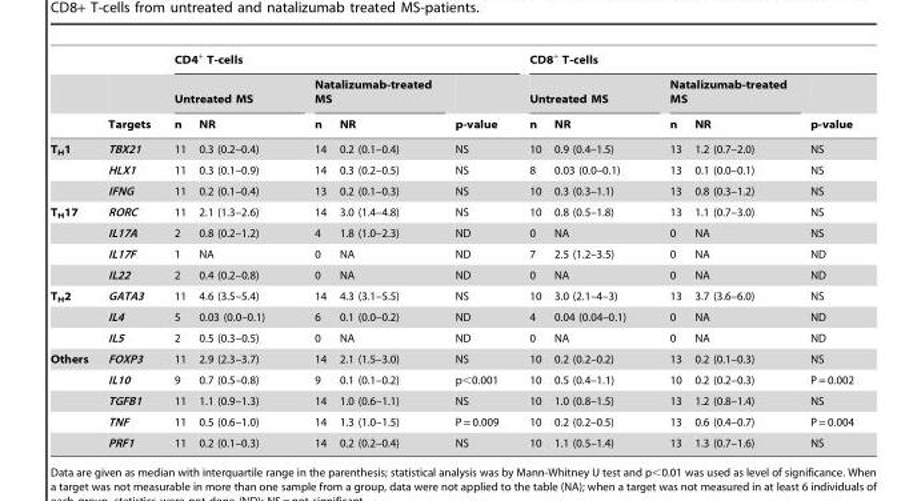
<table><thead><tr><td rowspan="3"></td><td rowspan="3">Targets</td><td colspan="5">CD4<sup>+</sup> T-cells</td><td colspan="5">CD8<sup>+</sup> T-cells</td></tr><tr><td colspan="2">Untreated MS</td><td colspan="2">Natalizumab-treated MS</td><td rowspan="2">p-value</td><td colspan="2">Untreated MS</td><td colspan="2">Natalizumab-treated MS</td><td rowspan="2">p-value</td></tr><tr><td>n</td><td>NR</td><td>n</td><td>NR</td><td>n</td><td>NR</td><td>n</td><td>NR</td></tr></thead><tbody><tr><td rowspan="3">T<sub>H</sub>1</td><td>TBX21</td><td>11</td><td>0.3 (0.2–0.4)</td><td>14</td><td>0.2 (0.1–0.4)</td><td>NS</td><td>10</td><td>0.9 (0.4–1.5)</td><td>13</td><td>1.2 (0.7–2.0)</td><td>NS</td></tr><tr><td>HLX1</td><td>11</td><td>0.3 (0.1–0.9)</td><td>14</td><td>0.3 (0.2–0.5)</td><td>NS</td><td>8</td><td>0.03 (0.0–0.1)</td><td>13</td><td>0.1 (0.0–0.1)</td><td>NS</td></tr><tr><td>IFNG</td><td>11</td><td>0.2 (0.1–0.4)</td><td>13</td><td>0.2 (0.1–0.3)</td><td>NS</td><td>10</td><td>0.3 (0.3–1.1)</td><td>13</td><td>0.8 (0.3–1.2)</td><td>NS</td></tr><tr><td rowspan="4">T<sub>H</sub>17</td><td>RORC</td><td>11</td><td>2.1 (1.3–2.6)</td><td>14</td><td>3.0 (1.4–4.8)</td><td>NS</td><td>10</td><td>0.8 (0.5–1.8)</td><td>13</td><td>1.1 (0.7–3.0)</td><td>NS</td></tr><tr><td>IL17A</td><td>2</td><td>0.8 (0.2–1.2)</td><td>4</td><td>1.8 (1.0–2.3)</td><td>ND</td><td>0</td><td>NA</td><td>0</td><td>NA</td><td>NS</td></tr><tr><td>IL17F</td><td>1</td><td>NA</td><td>0</td><td>NA</td><td>ND</td><td>7</td><td>2.5 (1.2–3.5)</td><td>0</td><td>NA</td><td>ND</td></tr><tr><td>IL22</td><td>2</td><td>0.4 (0.2–0.8)</td><td>0</td><td>NA</td><td>ND</td><td>0</td><td>NA</td><td>0</td><td>NA</td><td>ND</td></tr><tr><td rowspan="3">T<sub>H</sub>2</td><td>GATA3</td><td>11</td><td>4.6 (3.5–5.4)</td><td>14</td><td>4.3 (3.1–5.5)</td><td>NS</td><td>10</td><td>3.0 (2.1–4–3)</td><td>13</td><td>3.7 (3.6–6.0)</td><td>NS</td></tr><tr><td>IL4</td><td>5</td><td>0.03 (0.0–0.1)</td><td>6</td><td>0.1 (0.0–0.2)</td><td>ND</td><td>4</td><td>0.04 (0.04–0.1)</td><td>0</td><td>NA</td><td>ND</td></tr><tr><td>IL5</td><td>2</td><td>0.5 (0.3–0.5)</td><td>0</td><td>NA</td><td>ND</td><td>0</td><td>NA</td><td>0</td><td>NA</td><td>ND</td></tr><tr><td rowspan="5">Others</td><td>FOXP3</td><td>11</td><td>2.9 (2.3–3.7)</td><td>14</td><td>2.1 (1.5–3.0)</td><td>NS</td><td>10</td><td>0.2 (0.2–0.2)</td><td>13</td><td>0.2 (0.1–0.3)</td><td>NS</td></tr><tr><td>IL10</td><td>9</td><td>0.7 (0.5–0.8)</td><td>9</td><td>0.1 (0.1–0.2)</td><td>p&lt;0.001</td><td>10</td><td>0.5 (0.4–1.1)</td><td>10</td><td>0.2 (0.2–0.3)</td><td>P = 0.002</td></tr><tr><td>TGFB1</td><td>11</td><td>1.1 (0.9–1.3)</td><td>14</td><td>1.0 (0.6–1.1)</td><td>NS</td><td>10</td><td>1.0 (0.8–1.5)</td><td>13</td><td>1.2 (0.8–1.4)</td><td>NS</td></tr><tr><td>TNF</td><td>11</td><td>0.5 (0.6–1.0)</td><td>14</td><td>1.3 (1.0–1.5)</td><td>P = 0.009</td><td>10</td><td>0.2 (0.2–0.5)</td><td>13</td><td>0.6 (0.4–0.7)</td><td>P = 0.004</td></tr><tr><td>PRF1</td><td>11</td><td>0.2 (0.1–0.3)</td><td>14</td><td>0.2 (0.2–0.4)</td><td>NS</td><td>10</td><td>1.1 (0.5–1.4)</td><td>13</td><td>1.3 (0.7–1.6)</td><td>NS</td></tr></tbody></table>